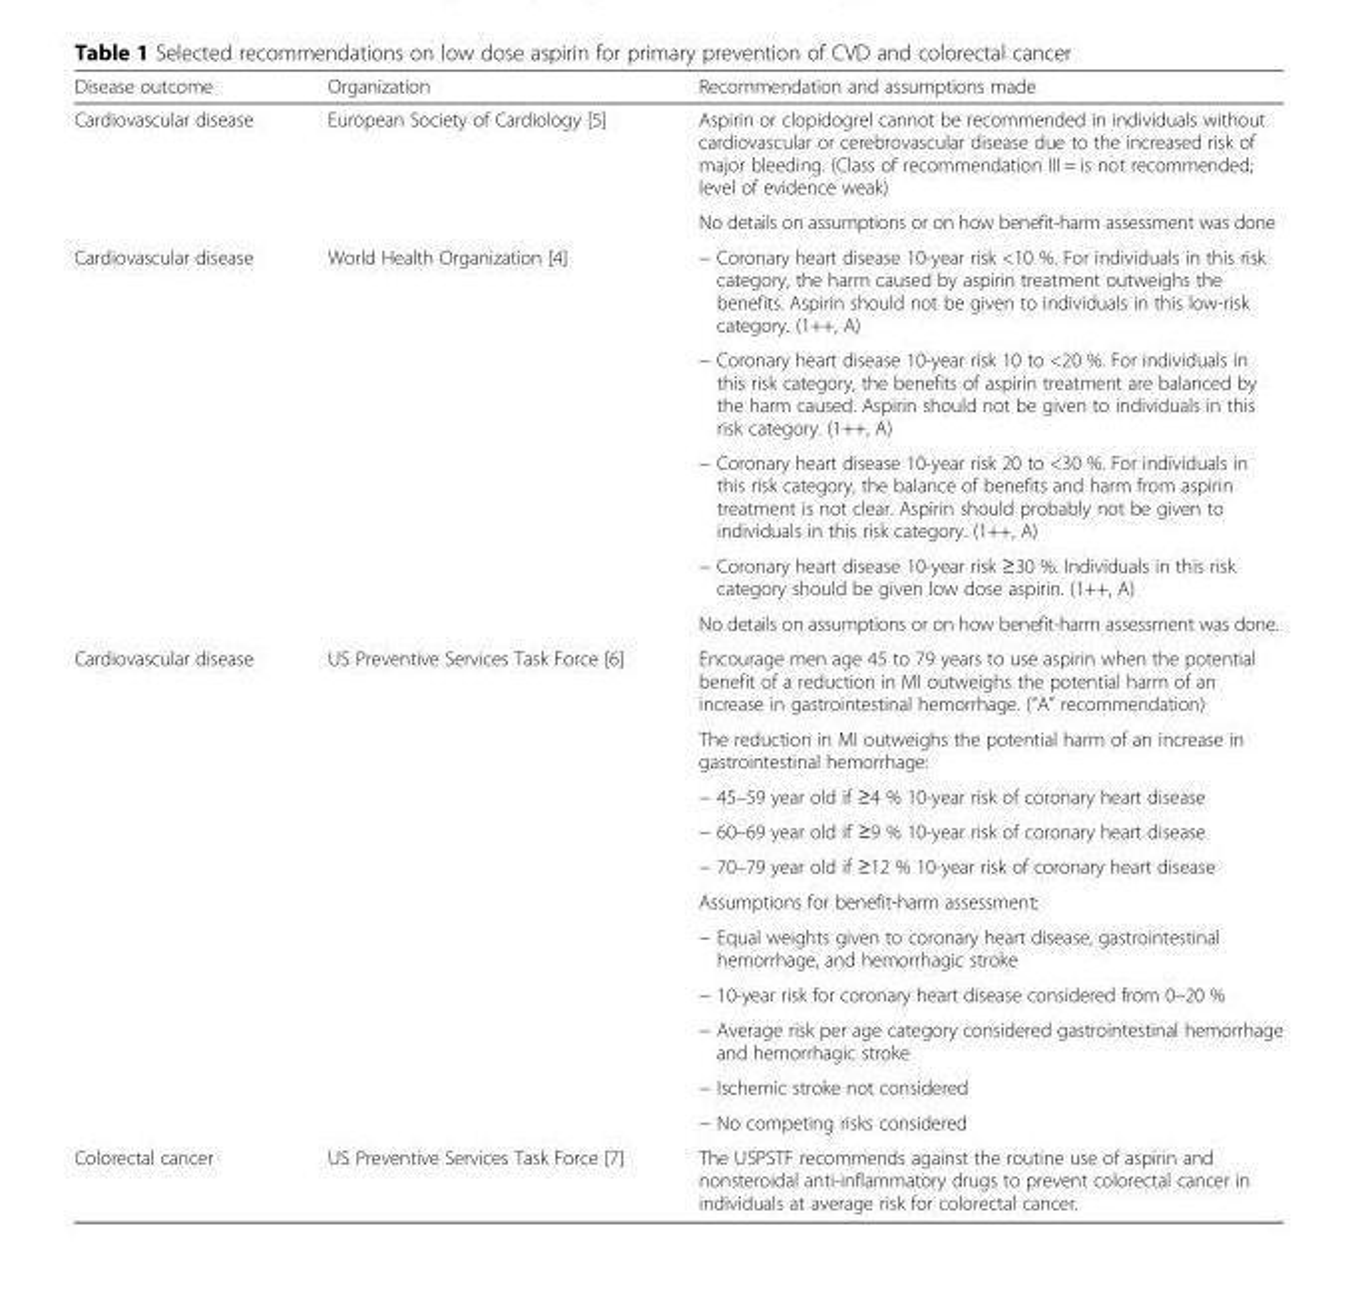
<table><thead><tr><td>Disease outcome</td><td>Organization</td><td>Recommendation and assumptions made</td></tr></thead><tbody><tr><td rowspan="2">Cardiovascular disease</td><td rowspan="2">European Society of Cardiology [5]</td><td>Aspirin or clopidogrel cannot be recommended in individuals without cardiovascular or cerebrovascular disease due to the increased risk of major bleeding. (Class of recommendation III = is not recommended; level of evidence weak)</td></tr><tr><td>No details on assumptions or on how benefit-harm assessment was done</td></tr><tr><td rowspan="5">Cardiovascular disease</td><td rowspan="5">World Health Organization [4]</td><td>− Coronary heart disease 10-year risk &lt;10 %. For individuals in this risk category, the harm caused by aspirin treatment outweighs the benefits. Aspirin should not be given to individuals in this low-risk category. (1++, A)</td></tr><tr><td>− Coronary heart disease 10-year risk 10 to &lt;20 %. For individuals in this risk category, the benefits of aspirin treatment are balanced by the harm caused. Aspirin should not be given to individuals in this risk category. (1++, A)</td></tr><tr><td>− Coronary heart disease 10-year risk 20 to &lt;30 %. For individuals in this risk category, the balance of benefits and harm from aspirin treatment is not clear. Aspirin should probably not be given to individuals in this risk category. (1++, A)</td></tr><tr><td>− Coronary heart disease 10-year risk ≥30 %. Individuals in this risk category should be given low dose aspirin. (1++, A)</td></tr><tr><td>No details on assumptions or on how benefit-harm assessment was done.</td></tr><tr><td rowspan="11">Cardiovascular disease</td><td rowspan="11">US Preventive Services Task Force [6]</td><td>Encourage men age 45 to 79 years to use aspirin when the potential benefit of a reduction in MI outweighs the potential harm of an increase in gastrointestinal hemorrhage. (“A” recommendation)</td></tr><tr><td>The reduction in MI outweighs the potential harm of an increase in gastrointestinal hemorrhage:</td></tr><tr><td>− 45–59 year old if ≥4 % 10-year risk of coronary heart disease</td></tr><tr><td>− 60–69 year old if ≥9 % 10-year risk of coronary heart disease</td></tr><tr><td>− 70–79 year old if ≥12 % 10-year risk of coronary heart disease</td></tr><tr><td>Assumptions for benefit-harm assessment:</td></tr><tr><td>− Equal weights given to coronary heart disease, gastrointestinal hemorrhage, and hemorrhagic stroke</td></tr><tr><td>− 10-year risk for coronary heart disease considered from 0–20 %</td></tr><tr><td>− Average risk per age category considered gastrointestinal hemorrhage and hemorrhagic stroke</td></tr><tr><td>− Ischemic stroke not considered</td></tr><tr><td>− No competing risks considered</td></tr><tr><td>Colorectal cancer</td><td>US Preventive Services Task Force [7]</td><td>The USPSTF recommends against the routine use of aspirin and nonsteroidal anti-inflammatory drugs to prevent colorectal cancer in individuals at average risk for colorectal cancer.</td></tr></tbody></table>